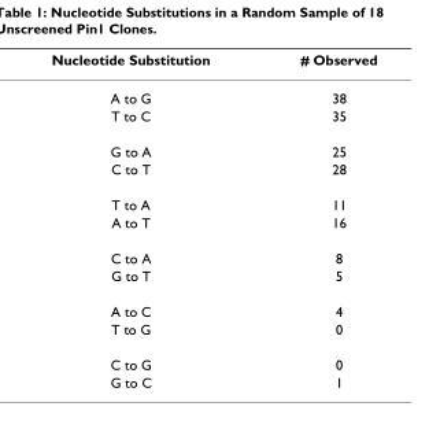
<table><thead><tr><td>Nucleotide Substitution</td><td># Observed</td></tr></thead><tbody><tr><td>A to G</td><td>38</td></tr><tr><td>T to C</td><td>35</td></tr><tr><td>G to A</td><td>25</td></tr><tr><td>C to T</td><td>28</td></tr><tr><td>T to A</td><td>11</td></tr><tr><td>A to T</td><td>16</td></tr><tr><td>C to A</td><td>8</td></tr><tr><td>G to T</td><td>5</td></tr><tr><td>A to C</td><td>4</td></tr><tr><td>T to G</td><td>0</td></tr><tr><td>C to G</td><td>0</td></tr><tr><td>G to C</td><td>1</td></tr></tbody></table>